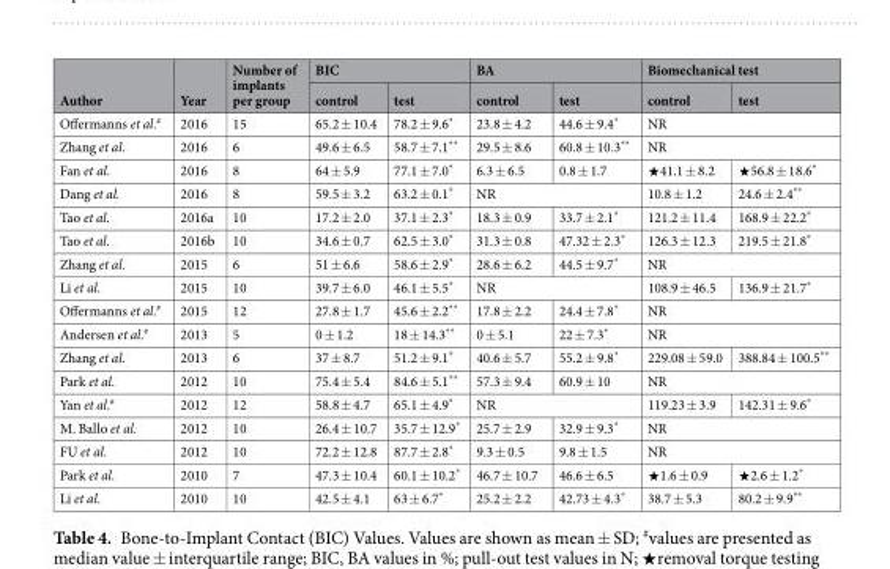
<table><thead><tr><td rowspan="2">Author</td><td rowspan="2">Year</td><td rowspan="2">Number of implants per group</td><td colspan="2">BIC</td><td colspan="2">BA</td><td colspan="2">Biomechanical test</td></tr><tr><td>control</td><td>test</td><td>control</td><td>test</td><td>control</td><td>test</td></tr></thead><tbody><tr><td>Offermanns et al.<sup>#</sup></td><td>2016</td><td>15</td><td>65.2 ± 10.4</td><td>78.2 ± 9.6*</td><td>23.8 ± 4.2</td><td>44.6 ± 9.4*</td><td colspan="2">NR</td></tr><tr><td>Zhang et al.</td><td>2016</td><td>6</td><td>49.6 ± 6.5</td><td>58.7 ± 7.1**</td><td>29.5 ± 8.6</td><td>60.8 ± 10.3**</td><td colspan="2">NR</td></tr><tr><td>Fan et al.</td><td>2016</td><td>8</td><td>64 ± 5.9</td><td>77.1 ± 7.0*</td><td>6.3 ± 6.5</td><td>0.8 ± 1.7</td><td>★41.1 ± 8.2</td><td>★56.8 ± 18.6*</td></tr><tr><td>Dang et al.</td><td>2016</td><td>8</td><td>59.5 ± 3.2</td><td>63.2 ± 0.1*</td><td colspan="2">NR</td><td>10.8 ± 1.2</td><td>24.6 ± 2.4**</td></tr><tr><td>Tao et al.</td><td>2016a</td><td>10</td><td>17.2 ± 2.0</td><td>37.1 ± 2.3*</td><td>18.3 ± 0.9</td><td>33.7 ± 2.1*</td><td>121.2 ± 11.4</td><td>168.9 ± 22.2*</td></tr><tr><td>Tao et al.</td><td>2016b</td><td>10</td><td>34.6 ± 0.7</td><td>62.5 ± 3.0*</td><td>31.3 ± 0.8</td><td>47.32 ± 2.3*</td><td>126.3 ± 12.3</td><td>219.5 ± 21.8*</td></tr><tr><td>Zhang et al.</td><td>2015</td><td>6</td><td>51 ± 6.6</td><td>58.6 ± 2.9*</td><td>28.6 ± 6.2</td><td>44.5 ± 9.7*</td><td colspan="2">NR</td></tr><tr><td>Li et al.</td><td>2015</td><td>10</td><td>39.7 ± 6.0</td><td>46.1 ± 5.5*</td><td colspan="2">NR</td><td>108.9 ± 46.5</td><td>136.9 ± 21.7*</td></tr><tr><td>Offermanns et al.<sup>#</sup></td><td>2015</td><td>12</td><td>27.8 ± 1.7</td><td>45.6 ± 2.2**</td><td>17.8 ± 2.2</td><td>24.4 ± 7.8*</td><td colspan="2">NR</td></tr><tr><td>Andersen et al.<sup>#</sup></td><td>2013</td><td>5</td><td>0 ± 1.2</td><td>18 ± 14.3**</td><td>0 ± 5.1</td><td>22 ± 7.3*</td><td colspan="2">NR</td></tr><tr><td>Zhang et al.</td><td>2013</td><td>6</td><td>37 ± 8.7</td><td>51.2 ± 9.1*</td><td>40.6 ± 5.7</td><td>55.2 ± 9.8*</td><td>229.08 ± 59.0</td><td>388.84 ± 100.5**</td></tr><tr><td>Park et al.</td><td>2012</td><td>10</td><td>75.4 ± 5.4</td><td>84.6 ± 5.1**</td><td>57.3 ± 9.4</td><td>60.9 ± 10</td><td colspan="2">NR</td></tr><tr><td>Yan et al.<sup>#</sup></td><td>2012</td><td>12</td><td>58.8 ± 4.7</td><td>65.1 ± 4.9*</td><td colspan="2">NR</td><td>119.23 ± 3.9</td><td>142.31 ± 9.6*</td></tr><tr><td>M. Ballo et al.</td><td>2012</td><td>10</td><td>26.4 ± 10.7</td><td>35.7 ± 12.9*</td><td>25.7 ± 2.9</td><td>32.9 ± 9.3*</td><td colspan="2">NR</td></tr><tr><td>FU et al.</td><td>2012</td><td>10</td><td>72.2 ± 12.8</td><td>87.7 ± 2.8*</td><td>9.3 ± 0.5</td><td>9.8 ± 1.5</td><td colspan="2">NR</td></tr><tr><td>Park et al.</td><td>2010</td><td>7</td><td>47.3 ± 10.4</td><td>60.1 ± 10.2*</td><td>46.7 ± 10.7</td><td>46.6 ± 6.5</td><td>★1.6 ± 0.9</td><td>★2.6 ± 1.2*</td></tr><tr><td>Li et al.</td><td>2010</td><td>10</td><td>42.5 ± 4.1</td><td>63 ± 6.7*</td><td>25.2 ± 2.2</td><td>42.73 ± 4.3*</td><td>38.7 ± 5.3</td><td>80.2 ± 9.9**</td></tr></tbody></table>